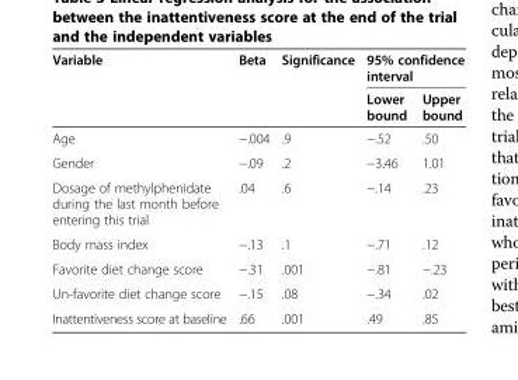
<table><thead><tr><td rowspan="2">Variable</td><td rowspan="2">Beta</td><td rowspan="2">Significance</td><td colspan="2">95% confidence interval</td></tr><tr><td>Lower bound</td><td>Upper bound</td></tr></thead><tbody><tr><td>Age</td><td>−.004</td><td>.9</td><td>−.52</td><td>.50</td></tr><tr><td>Gender</td><td>−.09</td><td>.2</td><td>−3.46</td><td>1.01</td></tr><tr><td>Dosage of methylphenidate during the last month before entering this trial</td><td>.04</td><td>.6</td><td>−.14</td><td>.23</td></tr><tr><td>Body mass index</td><td>−.13</td><td>.1</td><td>−.71</td><td>.12</td></tr><tr><td>Favorite diet change score</td><td>−.31</td><td>.001</td><td>−.81</td><td>−.23</td></tr><tr><td>Un-favorite diet change score</td><td>−.15</td><td>.08</td><td>−.34</td><td>.02</td></tr><tr><td>Inattentiveness score at baseline</td><td>.66</td><td>.001</td><td>.49</td><td>.85</td></tr></tbody></table>